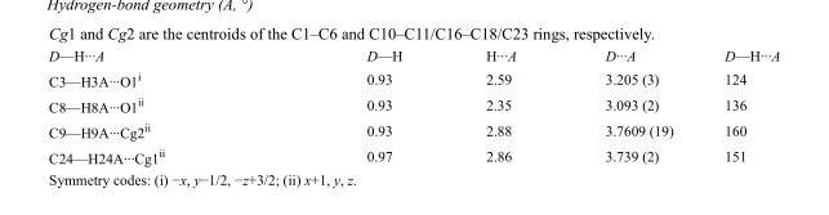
<table><tbody><tr><td>D—H···A</td><td>D—H</td><td>H···A</td><td>D···A</td><td>D—H···A</td></tr><tr><td>C3—H3A···O1<sup>i</sup></td><td>0.93</td><td>2.59</td><td>3.205 (3)</td><td>124</td></tr><tr><td>C8—H8A···O1<sup>ii</sup></td><td>0.93</td><td>2.35</td><td>3.093 (2)</td><td>136</td></tr><tr><td>C9—H9A···Cg2<sup>ii</sup></td><td>0.93</td><td>2.88</td><td>3.7609 (19)</td><td>160</td></tr><tr><td>C24—H24A···Cg1<sup>ii</sup></td><td>0.97</td><td>2.86</td><td>3.739 (2)</td><td>151</td></tr></tbody></table>